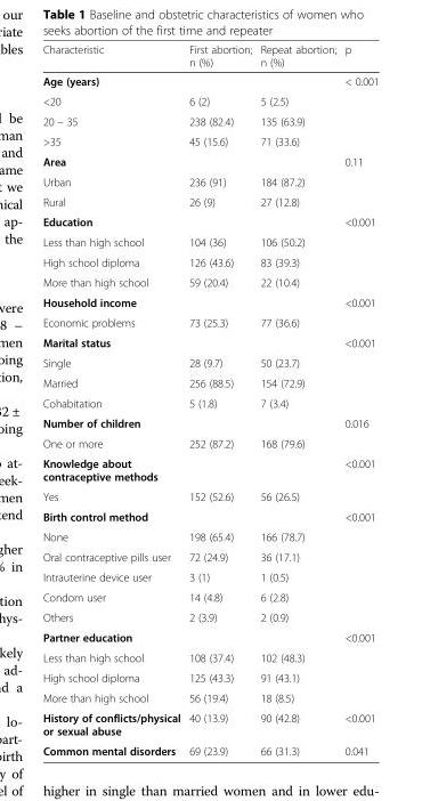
<table><thead><tr><td>Characteristic</td><td>First abortion; n (%)</td><td>Repeat abortion; n (%)</td><td>p</td></tr></thead><tbody><tr><td>Age (years)</td><td></td><td></td><td>&lt; 0.001</td></tr><tr><td>&lt;20</td><td>6 (2)</td><td>5 (2.5)</td><td></td></tr><tr><td>20 – 35</td><td>238 (82.4)</td><td>135 (63.9)</td><td></td></tr><tr><td>&gt;35</td><td>45 (15.6)</td><td>71 (33.6)</td><td></td></tr><tr><td>Area</td><td></td><td></td><td>0.11</td></tr><tr><td>Urban</td><td>236 (91)</td><td>184 (87.2)</td><td></td></tr><tr><td>Rural</td><td>26 (9)</td><td>27 (12.8)</td><td></td></tr><tr><td>Education</td><td></td><td></td><td>&lt;0.001</td></tr><tr><td>Less than high school</td><td>104 (36)</td><td>106 (50.2)</td><td></td></tr><tr><td>High school diploma</td><td>126 (43.6)</td><td>83 (39.3)</td><td></td></tr><tr><td>More than high school</td><td>59 (20.4)</td><td>22 (10.4)</td><td></td></tr><tr><td>Household income</td><td></td><td></td><td>&lt;0.001</td></tr><tr><td>Economic problems</td><td>73 (25.3)</td><td>77 (36.6)</td><td></td></tr><tr><td>Marital status</td><td></td><td></td><td>&lt;0.001</td></tr><tr><td>Single</td><td>28 (9.7)</td><td>50 (23.7)</td><td></td></tr><tr><td>Married</td><td>256 (88.5)</td><td>154 (72.9)</td><td></td></tr><tr><td>Cohabitation</td><td>5 (1.8)</td><td>7 (3.4)</td><td></td></tr><tr><td>Number of children</td><td></td><td></td><td>0.016</td></tr><tr><td>One or more</td><td>252 (87.2)</td><td>168 (79.6)</td><td></td></tr><tr><td>Knowledge about contraceptive methods</td><td></td><td></td><td>&lt;0.001</td></tr><tr><td>Yes</td><td>152 (52.6)</td><td>56 (26.5)</td><td></td></tr><tr><td>Birth control method</td><td></td><td></td><td>&lt;0.001</td></tr><tr><td>None</td><td>198 (65.4)</td><td>166 (78.7)</td><td></td></tr><tr><td>Oral contraceptive pills user</td><td>72 (24.9)</td><td>36 (17.1)</td><td></td></tr><tr><td>Intrauterine device user</td><td>3 (1)</td><td>1 (0.5)</td><td></td></tr><tr><td>Condom user</td><td>14 (4.8)</td><td>6 (2.8)</td><td></td></tr><tr><td>Others</td><td>2 (3.9)</td><td>2 (0.9)</td><td></td></tr><tr><td>Partner education</td><td></td><td></td><td>&lt;0.001</td></tr><tr><td>Less than high school</td><td>108 (37.4)</td><td>102 (48.3)</td><td></td></tr><tr><td>High school diploma</td><td>125 (43.3)</td><td>91 (43.1)</td><td></td></tr><tr><td>More than high school</td><td>56 (19.4)</td><td>18 (8.5)</td><td></td></tr><tr><td>History of conflicts/physical or sexual abuse</td><td>40 (13.9)</td><td>90 (42.8)</td><td>&lt;0.001</td></tr><tr><td>Common mental disorders</td><td>69 (23.9)</td><td>66 (31.3)</td><td>0.041</td></tr></tbody></table>